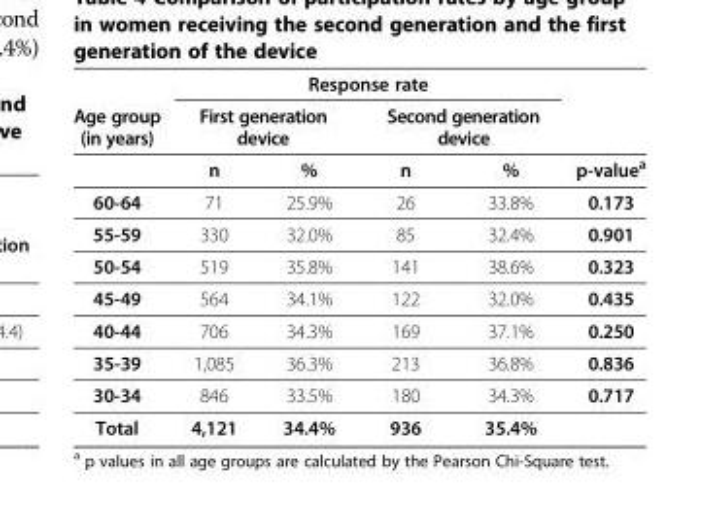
<table><thead><tr><td rowspan="3">Age group (in years)</td><td colspan="4">Response rate</td><td rowspan="3">p-value<sup>a</sup></td></tr><tr><td colspan="2">First generation device</td><td colspan="2">Second generation device</td></tr><tr><td>n</td><td>%</td><td>n</td><td>%</td></tr></thead><tbody><tr><td>60-64</td><td>71</td><td>25.9%</td><td>26</td><td>33.8%</td><td>0.173</td></tr><tr><td>55-59</td><td>330</td><td>32.0%</td><td>85</td><td>32.4%</td><td>0.901</td></tr><tr><td>50-54</td><td>519</td><td>35.8%</td><td>141</td><td>38.6%</td><td>0.323</td></tr><tr><td>45-49</td><td>564</td><td>34.1%</td><td>122</td><td>32.0%</td><td>0.435</td></tr><tr><td>40-44</td><td>706</td><td>34.3%</td><td>169</td><td>37.1%</td><td>0.250</td></tr><tr><td>35-39</td><td>1,085</td><td>36.3%</td><td>213</td><td>36.8%</td><td>0.836</td></tr><tr><td>30-34</td><td>846</td><td>33.5%</td><td>180</td><td>34.3%</td><td>0.717</td></tr><tr><td>Total</td><td>4,121</td><td>34.4%</td><td>936</td><td>35.4%</td><td></td></tr></tbody></table>